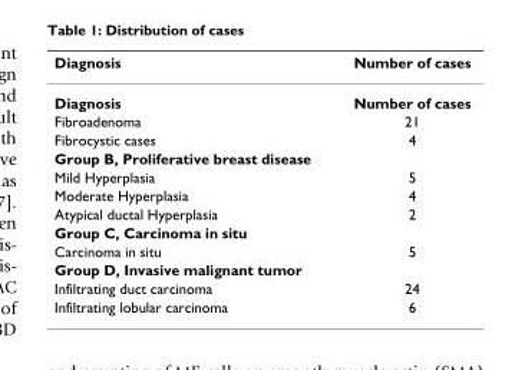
<table><thead><tr><td>Diagnosis</td><td>Number of cases</td></tr></thead><tbody><tr><td>Diagnosis</td><td>Number of cases</td></tr><tr><td>Fibroadenoma</td><td>21</td></tr><tr><td>Fibrocystic cases</td><td>4</td></tr><tr><td colspan="2">Group B, Proliferative breast disease</td></tr><tr><td>Mild Hyperplasia</td><td>5</td></tr><tr><td>Moderate Hyperplasia</td><td>4</td></tr><tr><td>Atypical ductal Hyperplasia</td><td>2</td></tr><tr><td colspan="2">Group C, Carcinoma in situ</td></tr><tr><td>Carcinoma in situ</td><td>5</td></tr><tr><td colspan="2">Group D, Invasive malignant tumor</td></tr><tr><td>Infiltrating duct carcinoma</td><td>24</td></tr><tr><td>Infiltrating lobular carcinoma</td><td>6</td></tr></tbody></table>